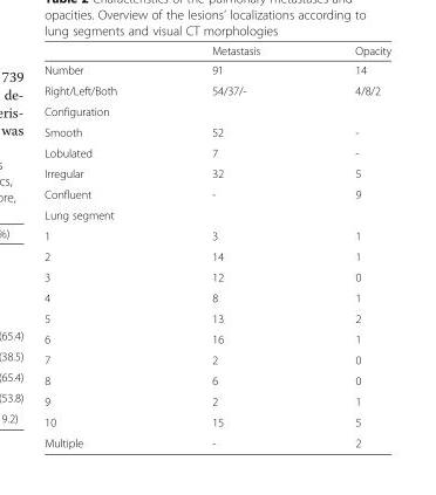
<table><thead><tr><td></td><td>Metastasis</td><td>Opacity</td></tr></thead><tbody><tr><td>Number</td><td>91</td><td>14</td></tr><tr><td>Right/Left/Both</td><td>54/37/-</td><td>4/8/2</td></tr><tr><td colspan="3">Configuration</td></tr><tr><td>Smooth</td><td>52</td><td>-</td></tr><tr><td>Lobulated</td><td>7</td><td>-</td></tr><tr><td>Irregular</td><td>32</td><td>5</td></tr><tr><td>Confluent</td><td>-</td><td>9</td></tr><tr><td colspan="3">Lung segment</td></tr><tr><td>1</td><td>3</td><td>1</td></tr><tr><td>2</td><td>14</td><td>1</td></tr><tr><td>3</td><td>12</td><td>0</td></tr><tr><td>4</td><td>8</td><td>1</td></tr><tr><td>5</td><td>13</td><td>2</td></tr><tr><td>6</td><td>16</td><td>1</td></tr><tr><td>7</td><td>2</td><td>0</td></tr><tr><td>8</td><td>6</td><td>0</td></tr><tr><td>9</td><td>2</td><td>1</td></tr><tr><td>10</td><td>15</td><td>5</td></tr><tr><td>Multiple</td><td>-</td><td>2</td></tr></tbody></table>